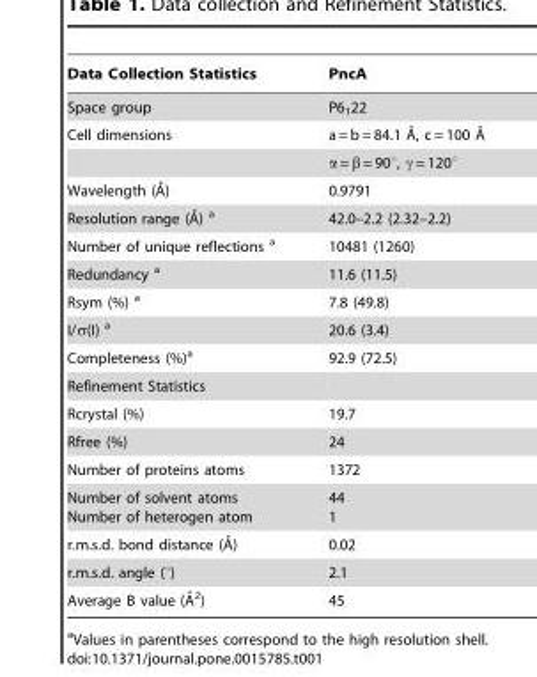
<table><thead><tr><td>Data Collection Statistics</td><td>PncA</td></tr></thead><tbody><tr><td>Space group</td><td>P6<sub>1</sub>22</td></tr><tr><td rowspan="2">Cell dimensions</td><td>a = b = 84.1 A˚, c = 100</td></tr><tr><td>α = β = 90°, γ = 120°</td></tr><tr><td>Wavelength (A˚)</td><td>0.9791</td></tr><tr><td>Resolution range (A˚) a</td><td>42.0–2.2 (2.32–2.2)</td></tr><tr><td>Number of unique reflections a</td><td>10481 (1260)</td></tr><tr><td>Redundancy a</td><td>11.6 (11.5)</td></tr><tr><td>Rsym (%) a</td><td>7.8 (49.8)</td></tr><tr><td>I/σ(I) a</td><td>20.6 (3.4)</td></tr><tr><td>Completeness (%)<sup>a</sup></td><td>92.9 (72.5)</td></tr><tr><td colspan="2">Refinement Statistics</td></tr><tr><td>Rcrystal (%)</td><td>19.7</td></tr><tr><td>Rfree (%)</td><td>24</td></tr><tr><td>Number of proteins atoms</td><td>1372</td></tr><tr><td>Number of solvent atoms Number of heterogen atom</td><td>44 1</td></tr><tr><td>r.m.s.d. bond distance (A˚)</td><td>0.02</td></tr><tr><td>r.m.s.d. angle (°)</td><td>2.1</td></tr><tr><td>Average B value (A˚ 2)</td><td>45</td></tr></tbody></table>